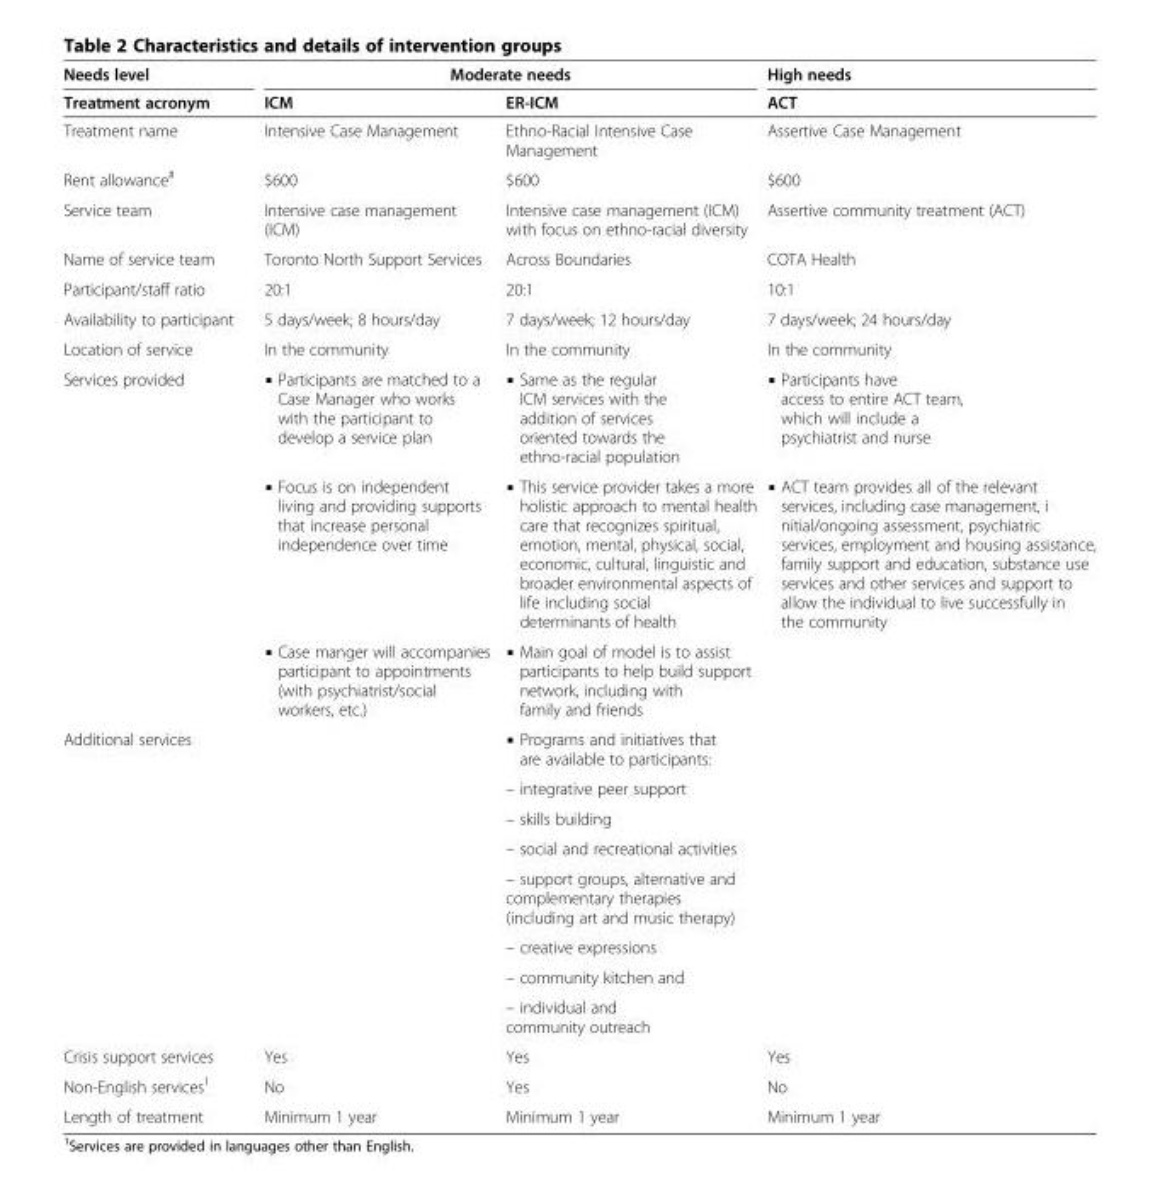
<table><thead><tr><td rowspan="2">Needs level Treatment acronym</td><td colspan="2">Moderate needs</td><td rowspan="2">High needs ACT</td></tr><tr><td>ICM</td><td>ER-ICM</td></tr></thead><tbody><tr><td>Treatment name</td><td>Intensive Case Management</td><td>Ethno-Racial Intensive Case Management</td><td>Assertive Case Management</td></tr><tr><td>Rent allowance<sup>#</sup></td><td>$600</td><td>$600</td><td>$600</td></tr><tr><td>Service team</td><td>Intensive case management (ICM)</td><td>Intensive case management (ICM) with focus on ethno-racial diversity</td><td>Assertive community treatment (ACT)</td></tr><tr><td>Name of service team</td><td>Toronto North Support Services</td><td>Across Boundaries</td><td>COTA Health</td></tr><tr><td>Participant/staff ratio</td><td>20:1</td><td>20:1</td><td>10:1</td></tr><tr><td>Availability to participant</td><td>5 days/week; 8 hours/day</td><td>7 days/week; 12 hours/day</td><td>7 days/week; 24 hours/day</td></tr><tr><td>Location of service</td><td>In the community</td><td>In the community</td><td>In the community</td></tr><tr><td rowspan="3">Services provided</td><td>▪ Participants are matched to a Case Manager who works with the participant to develop a service plan</td><td>▪ Same as the regular ICM services with the addition of services oriented towards the ethno-racial population</td><td>▪ Participants have access to entire ACT team, which will include a psychiatrist and nurse</td></tr><tr><td>▪ Focus is on independent living and providing supports that increase personal independence over time</td><td>▪ This service provider takes a more holistic approach to mental health care that recognizes spiritual, emotion, mental, physical, social, economic, cultural, linguistic and broader environmental aspects of life including social determinants of health</td><td>▪ ACT team provides all of the relevant services, including case management, i nitial/ongoing assessment, psychiatric services, employment and housing assistance, family support and education, substance use services and other services and support to allow the individual to live successfully in the community</td></tr><tr><td>▪ Case manger will accompanies participant to appointments (with psychiatrist/social workers, etc.)</td><td>▪ Main goal of model is to assist participants to help build support network, including with family and friends</td><td></td></tr><tr><td rowspan="8">Additional services</td><td rowspan="8"></td><td>▪ Programs and initiatives that are available to participants:</td><td rowspan="8"></td></tr><tr><td>– integrative peer support</td></tr><tr><td>– skills building</td></tr><tr><td>– social and recreational activities</td></tr><tr><td>– support groups, alternative and complementary therapies (including art and music therapy)</td></tr><tr><td>– creative expressions</td></tr><tr><td>– community kitchen and</td></tr><tr><td>– individual and community outreach</td></tr><tr><td>Crisis support services</td><td>Yes</td><td>Yes</td><td>Yes</td></tr><tr><td>Non-English services<sup>1</sup></td><td>No</td><td>Yes</td><td>No</td></tr><tr><td>Length of treatment</td><td>Minimum 1 year</td><td>Minimum 1 year</td><td>Minimum 1 year</td></tr></tbody></table>